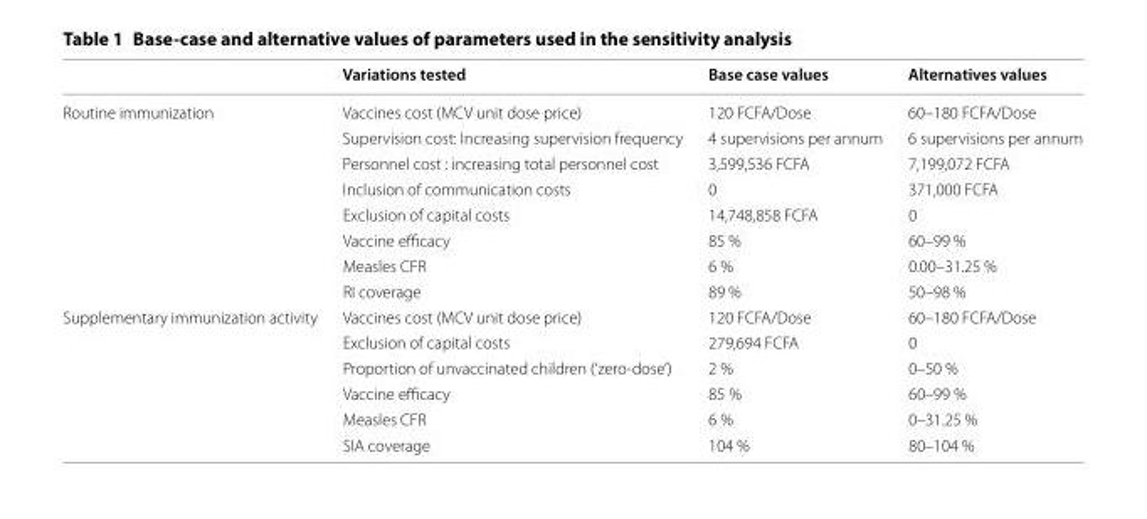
<table><thead><tr><td></td><td>Variations tested</td><td>Base case values</td><td>Alternatives values</td></tr></thead><tbody><tr><td rowspan="8">Routine immunization</td><td>Vaccines cost (MCV unit dose price)</td><td>120 FCFA/Dose</td><td>60–180 FCFA/Dose</td></tr><tr><td>Supervision cost: Increasing supervision frequency</td><td>4 supervisions per annum</td><td>6 supervisions per annum</td></tr><tr><td>Personnel cost : increasing total personnel cost</td><td>3,599,536 FCFA</td><td>7,199,072 FCFA</td></tr><tr><td>Inclusion of communication costs</td><td>0</td><td>371,000 FCFA</td></tr><tr><td>Exclusion of capital costs</td><td>14,748,858 FCFA</td><td>0</td></tr><tr><td>Vaccine efficacy</td><td>85 %</td><td>60–99 %</td></tr><tr><td>Measles CFR</td><td>6 %</td><td>0.00–31.25 %</td></tr><tr><td>RI coverage</td><td>89 %</td><td>50–98 %</td></tr><tr><td rowspan="6">Supplementary immunization activity</td><td>Vaccines cost (MCV unit dose price)</td><td>120 FCFA/Dose</td><td>60–180 FCFA/Dose</td></tr><tr><td>Exclusion of capital costs</td><td>279,694 FCFA</td><td>0</td></tr><tr><td>Proportion of unvaccinated children (‘zero-dose’)</td><td>2 %</td><td>0–50 %</td></tr><tr><td>Vaccine efficacy</td><td>85 %</td><td>60–99 %</td></tr><tr><td>Measles CFR</td><td>6 %</td><td>0–31.25 %</td></tr><tr><td>SIA coverage</td><td>104 %</td><td>80–104 %</td></tr></tbody></table>